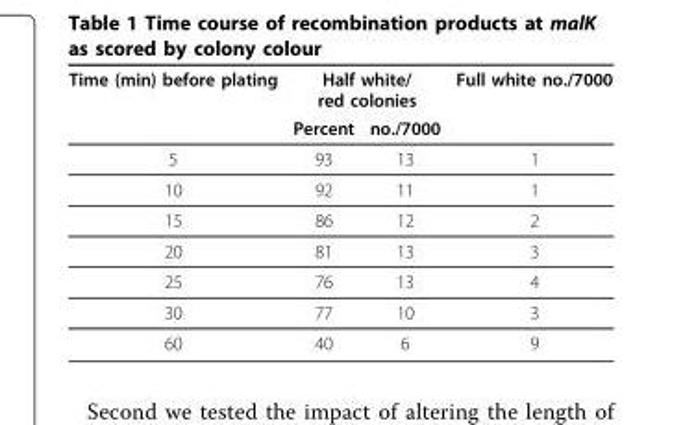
<table><thead><tr><td rowspan="2">Time (min) before plating</td><td colspan="2">Half white/ red colonies</td><td rowspan="2">Full white no./7000</td></tr><tr><td>Percent</td><td>no./7000</td></tr></thead><tbody><tr><td>5</td><td>93</td><td>13</td><td>1</td></tr><tr><td>10</td><td>92</td><td>11</td><td>1</td></tr><tr><td>15</td><td>86</td><td>12</td><td>2</td></tr><tr><td>20</td><td>81</td><td>13</td><td>3</td></tr><tr><td>25</td><td>76</td><td>13</td><td>4</td></tr><tr><td>30</td><td>77</td><td>10</td><td>3</td></tr><tr><td>60</td><td>40</td><td>6</td><td>9</td></tr></tbody></table>